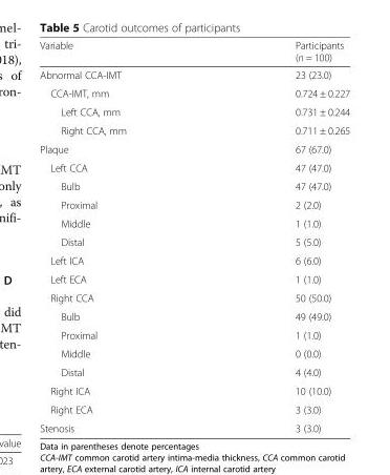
<table><thead><tr><td>Variable</td><td>Participants (n = 100)</td></tr></thead><tbody><tr><td>Abnormal CCA-IMT</td><td>23 (23.0)</td></tr><tr><td>CCA-IMT, mm</td><td>0.724 ± 0.227</td></tr><tr><td>Left CCA, mm</td><td>0.731 ± 0.244</td></tr><tr><td>Right CCA, mm</td><td>0.711 ± 0.265</td></tr><tr><td>Plaque</td><td>67 (67.0)</td></tr><tr><td>Left CCA</td><td>47 (47.0)</td></tr><tr><td>Bulb</td><td>47 (47.0)</td></tr><tr><td>Proximal</td><td>2 (2.0)</td></tr><tr><td>Middle</td><td>1 (1.0)</td></tr><tr><td>Distal</td><td>5 (5.0)</td></tr><tr><td>Left ICA</td><td>6 (6.0)</td></tr><tr><td>Left ECA</td><td>1 (1.0)</td></tr><tr><td>Right CCA</td><td>50 (50.0)</td></tr><tr><td>Bulb</td><td>49 (49.0)</td></tr><tr><td>Proximal</td><td>1 (1.0)</td></tr><tr><td>Middle</td><td>0 (0.0)</td></tr><tr><td>Distal</td><td>4 (4.0)</td></tr><tr><td>Right ICA</td><td>10 (10.0)</td></tr><tr><td>Right ECA</td><td>3 (3.0)</td></tr><tr><td>Stenosis</td><td>3 (3.0)</td></tr></tbody></table>